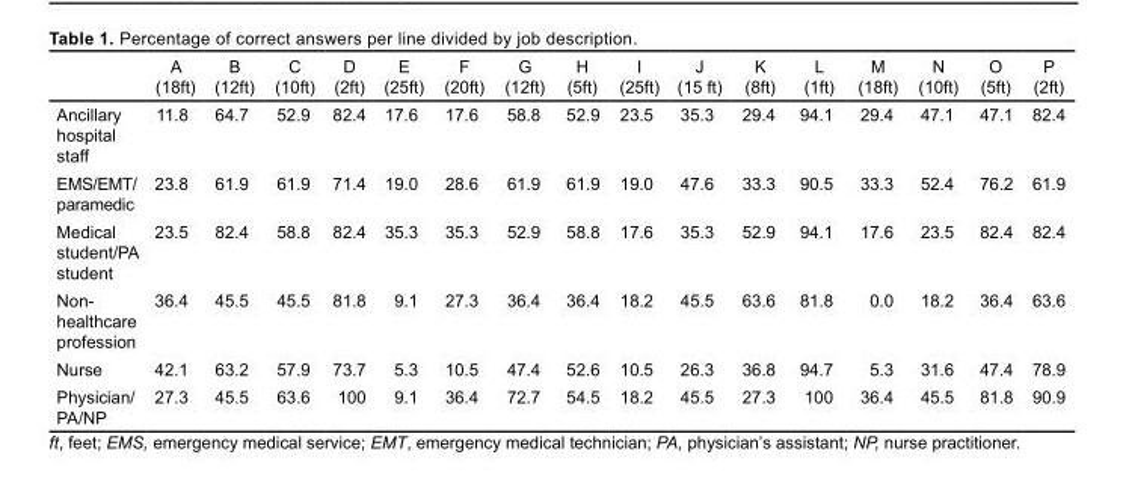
<table><thead><tr><td></td><td>A (18ft)</td><td>B (12ft)</td><td>C (10ft)</td><td>D (2ft)</td><td>E (25ft)</td><td>F (20ft)</td><td>G (12ft)</td><td>H (5ft)</td><td>I (25ft)</td><td>J (15 ft)</td><td>K (8ft)</td><td>L (1ft)</td><td>M (18ft)</td><td>N (10ft)</td><td>O (5ft)</td><td>P (2ft)</td></tr></thead><tbody><tr><td>Ancillary hospital staff</td><td>11.8</td><td>64.7</td><td>52.9</td><td>82.4</td><td>17.6</td><td>17.6</td><td>58.8</td><td>52.9</td><td>23.5</td><td>35.3</td><td>29.4</td><td>94.1</td><td>29.4</td><td>47.1</td><td>47.1</td><td>82.4</td></tr><tr><td>EMS/EMT/ paramedic</td><td>23.8</td><td>61.9</td><td>61.9</td><td>71.4</td><td>19.0</td><td>28.6</td><td>61.9</td><td>61.9</td><td>19.0</td><td>47.6</td><td>33.3</td><td>90.5</td><td>33.3</td><td>52.4</td><td>76.2</td><td>61.9</td></tr><tr><td>Medical student/PA student</td><td>23.5</td><td>82.4</td><td>58.8</td><td>82.4</td><td>35.3</td><td>35.3</td><td>52.9</td><td>58.8</td><td>17.6</td><td>35.3</td><td>52.9</td><td>94.1</td><td>17.6</td><td>23.5</td><td>82.4</td><td>82.4</td></tr><tr><td>Non- healthcare profession</td><td>36.4</td><td>45.5</td><td>45.5</td><td>81.8</td><td>9.1</td><td>27.3</td><td>36.4</td><td>36.4</td><td>18.2</td><td>45.5</td><td>63.6</td><td>81.8</td><td>0.0</td><td>18.2</td><td>36.4</td><td>63.6</td></tr><tr><td>Nurse</td><td>42.1</td><td>63.2</td><td>57.9</td><td>73.7</td><td>5.3</td><td>10.5</td><td>47.4</td><td>52.6</td><td>10.5</td><td>26.3</td><td>36.8</td><td>94.7</td><td>5.3</td><td>31.6</td><td>47.4</td><td>78.9</td></tr><tr><td>Physician/ PA/NP</td><td>27.3</td><td>45.5</td><td>63.6</td><td>100</td><td>9.1</td><td>36.4</td><td>72.7</td><td>54.5</td><td>18.2</td><td>45.5</td><td>27.3</td><td>100</td><td>36.4</td><td>45.5</td><td>81.8</td><td>90.9</td></tr></tbody></table>